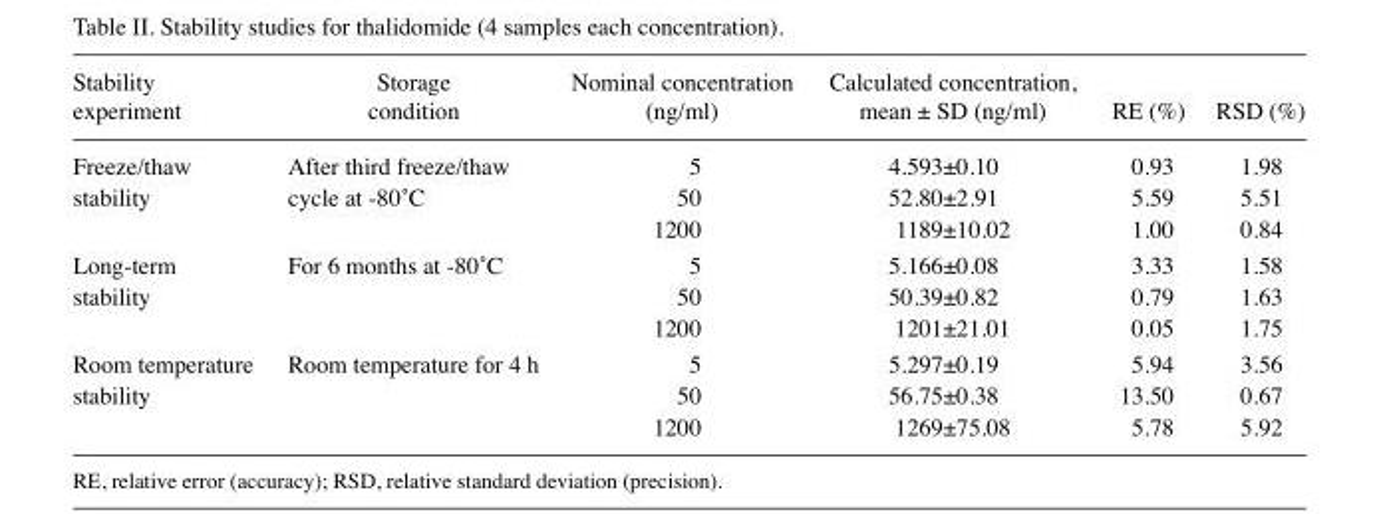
<table><thead><tr><td>Stability experiment</td><td>Storage condition</td><td>Nominal concentration (ng/ml)</td><td>Calculated concentration, mean ± SD (ng/ml)</td><td>RE (%)</td><td>RSD (%)</td></tr></thead><tbody><tr><td rowspan="3">Freeze/thaw stability</td><td rowspan="3">After third freeze/thaw cycle at ‑80˚C</td><td>5</td><td>4.593±0.10</td><td>0.93</td><td>1.98</td></tr><tr><td>50</td><td>52.80±2.91</td><td>5.59</td><td>5.51</td></tr><tr><td>1200</td><td>1189±10.02</td><td>1.00</td><td>0.84</td></tr><tr><td rowspan="3">Long‑term stability</td><td rowspan="3">For 6 months at ‑80˚C</td><td>5</td><td>5.166±0.08</td><td>3.33</td><td>1.58</td></tr><tr><td>50</td><td>50.39±0.82</td><td>0.79</td><td>1.63</td></tr><tr><td>1200</td><td>1201±21.01</td><td>0.05</td><td>1.75</td></tr><tr><td rowspan="3">Room temperature stability</td><td rowspan="3">Room temperature for 4 h</td><td>5</td><td>5.297±0.19</td><td>5.94</td><td>3.56</td></tr><tr><td>50</td><td>56.75±0.38</td><td>13.50</td><td>0.67</td></tr><tr><td>1200</td><td>1269±75.08</td><td>5.78</td><td>5.92</td></tr></tbody></table>